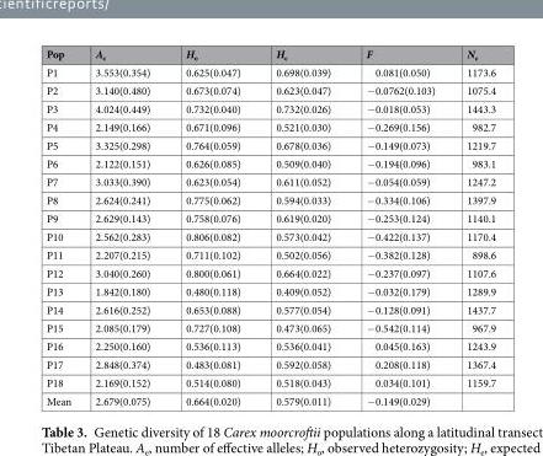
<table><thead><tr><td>Pop</td><td>A<sub>e</sub></td><td>H<sub>o</sub></td><td>H<sub>e</sub></td><td>F</td><td>N<sub>e</sub></td></tr></thead><tbody><tr><td>P1</td><td>3.553(0.354)</td><td>0.625(0.047)</td><td>0.698(0.039)</td><td>0.081(0.050)</td><td>1173.6</td></tr><tr><td>P2</td><td>3.140(0.480)</td><td>0.673(0.074)</td><td>0.623(0.047)</td><td>−0.0762(0.103)</td><td>1075.4</td></tr><tr><td>P3</td><td>4.024(0.449)</td><td>0.732(0.040)</td><td>0.732(0.026)</td><td>−0.018(0.053)</td><td>1443.3</td></tr><tr><td>P4</td><td>2.149(0.166)</td><td>0.671(0.096)</td><td>0.521(0.030)</td><td>−0.269(0.156)</td><td>982.7</td></tr><tr><td>P5</td><td>3.325(0.298)</td><td>0.764(0.059)</td><td>0.678(0.036)</td><td>−0.149(0.073)</td><td>1219.7</td></tr><tr><td>P6</td><td>2.122(0.151)</td><td>0.626(0.085)</td><td>0.509(0.040)</td><td>−0.194(0.096)</td><td>983.1</td></tr><tr><td>P7</td><td>3.033(0.390)</td><td>0.623(0.054)</td><td>0.611(0.052)</td><td>−0.054(0.059)</td><td>1247.2</td></tr><tr><td>P8</td><td>2.624(0.241)</td><td>0.775(0.062)</td><td>0.594(0.033)</td><td>−0.334(0.106)</td><td>1397.9</td></tr><tr><td>P9</td><td>2.629(0.143)</td><td>0.758(0.076)</td><td>0.619(0.020)</td><td>−0.253(0.124)</td><td>1140.1</td></tr><tr><td>P10</td><td>2.562(0.283)</td><td>0.806(0.082)</td><td>0.573(0.042)</td><td>−0.422(0.137)</td><td>1170.4</td></tr><tr><td>P11</td><td>2.207(0.215)</td><td>0.711(0.102)</td><td>0.502(0.056)</td><td>−0.382(0.128)</td><td>898.6</td></tr><tr><td>P12</td><td>3.040(0.260)</td><td>0.800(0.061)</td><td>0.664(0.022)</td><td>−0.237(0.097)</td><td>1107.6</td></tr><tr><td>P13</td><td>1.842(0.180)</td><td>0.480(0.118)</td><td>0.409(0.052)</td><td>−0.032(0.179)</td><td>1289.9</td></tr><tr><td>P14</td><td>2.616(0.252)</td><td>0.653(0.088)</td><td>0.577(0.054)</td><td>−0.128(0.091)</td><td>1437.7</td></tr><tr><td>P15</td><td>2.085(0.179)</td><td>0.727(0.108)</td><td>0.473(0.065)</td><td>−0.542(0.114)</td><td>967.9</td></tr><tr><td>P16</td><td>2.250(0.160)</td><td>0.536(0.113)</td><td>0.536(0.041)</td><td>0.045(0.163)</td><td>1243.9</td></tr><tr><td>P17</td><td>2.848(0.374)</td><td>0.483(0.081)</td><td>0.592(0.058)</td><td>0.208(0.118)</td><td>1367.4</td></tr><tr><td>P18</td><td>2.169(0.152)</td><td>0.514(0.080)</td><td>0.518(0.043)</td><td>0.034(0.101)</td><td>1159.7</td></tr><tr><td>Mean</td><td>2.679(0.075)</td><td>0.664(0.020)</td><td>0.579(0.011)</td><td>−0.149(0.029)</td><td></td></tr></tbody></table>